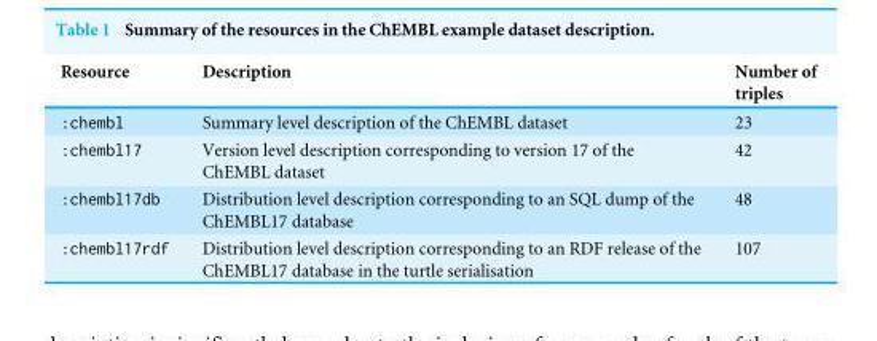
<table><thead><tr><td>Resource</td><td>Description</td><td>Number of triples</td></tr></thead><tbody><tr><td>:chembl</td><td>Summary level description of the ChEMBL dataset</td><td>23</td></tr><tr><td>:chembl17</td><td>Version level description corresponding to version 17 of the ChEMBL dataset</td><td>42</td></tr><tr><td>:chembl17db</td><td>Distribution level description corresponding to an SQL dump of the ChEMBL17 database</td><td>48</td></tr><tr><td>:chembl17rdf</td><td>Distribution level description corresponding to an RDF release of the ChEMBL17 database in the turtle serialisation</td><td>107</td></tr></tbody></table>